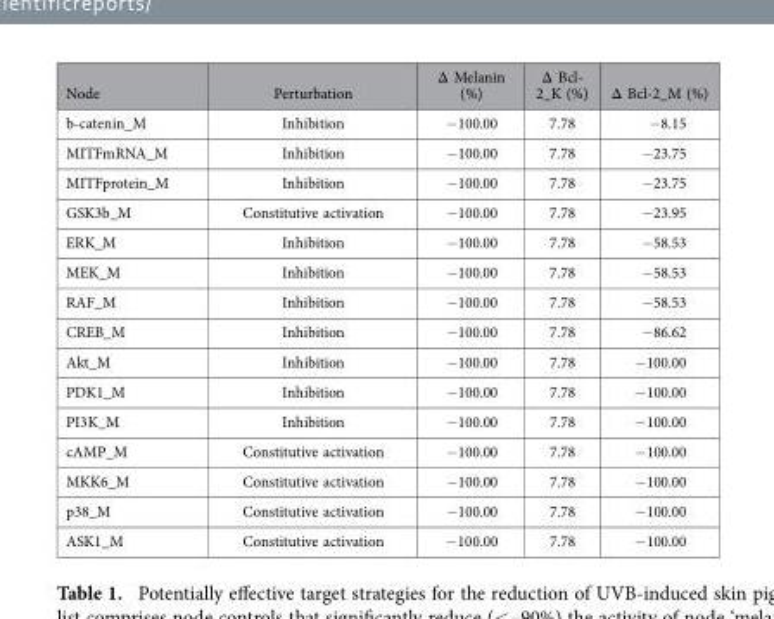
<table><thead><tr><td>Node</td><td>Perturbation</td><td>Δ Melanin (%)</td><td>Δ Bcl- 2_K (%)</td><td>Δ Bcl-2_M (%)</td></tr></thead><tbody><tr><td>b-catenin_M</td><td>Inhibition</td><td>−100.00</td><td>7.78</td><td>−8.15</td></tr><tr><td>MITFmRNA_M</td><td>Inhibition</td><td>−100.00</td><td>7.78</td><td>−23.75</td></tr><tr><td>MITFprotein_M</td><td>Inhibition</td><td>−100.00</td><td>7.78</td><td>−23.75</td></tr><tr><td>GSK3b_M</td><td>Constitutive activation</td><td>−100.00</td><td>7.78</td><td>−23.95</td></tr><tr><td>ERK_M</td><td>Inhibition</td><td>−100.00</td><td>7.78</td><td>−58.53</td></tr><tr><td>MEK_M</td><td>Inhibition</td><td>−100.00</td><td>7.78</td><td>−58.53</td></tr><tr><td>RAF_M</td><td>Inhibition</td><td>−100.00</td><td>7.78</td><td>−58.53</td></tr><tr><td>CREB_M</td><td>Inhibition</td><td>−100.00</td><td>7.78</td><td>−86.62</td></tr><tr><td>Akt_M</td><td>Inhibition</td><td>−100.00</td><td>7.78</td><td>−100.00</td></tr><tr><td>PDK1_M</td><td>Inhibition</td><td>−100.00</td><td>7.78</td><td>−100.00</td></tr><tr><td>PI3K_M</td><td>Inhibition</td><td>−100.00</td><td>7.78</td><td>−100.00</td></tr><tr><td>cAMP_M</td><td>Constitutive activation</td><td>−100.00</td><td>7.78</td><td>−100.00</td></tr><tr><td>MKK6_M</td><td>Constitutive activation</td><td>−100.00</td><td>7.78</td><td>−100.00</td></tr><tr><td>p38_M</td><td>Constitutive activation</td><td>−100.00</td><td>7.78</td><td>−100.00</td></tr><tr><td>ASK1_M</td><td>Constitutive activation</td><td>−100.00</td><td>7.78</td><td>−100.00</td></tr></tbody></table>